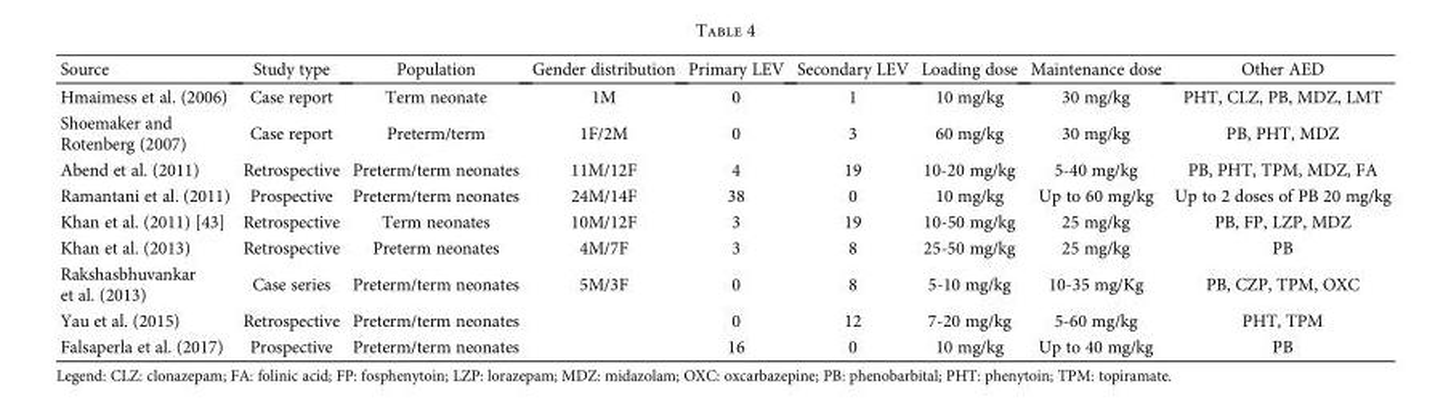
<table><thead><tr><td>Source</td><td>Study type</td><td>Population</td><td>Gender distribution</td><td>Primary LEV</td><td>Secondary LEV</td><td>Loading dose</td><td>Maintenance dose</td><td>Other AED</td></tr></thead><tbody><tr><td>Hmaimess et al. (2006)</td><td>Case report</td><td>Term neonate</td><td>1M</td><td>0</td><td>1</td><td>10 mg/kg</td><td>30 mg/kg</td><td>PHT, CLZ, PB, MDZ, LMT</td></tr><tr><td>Shoemaker and Rotenberg (2007)</td><td>Case report</td><td>Preterm/term</td><td>1F/2M</td><td>0</td><td>3</td><td>60 mg/kg</td><td>30 mg/kg</td><td>PB, PHT, MDZ</td></tr><tr><td>Abend et al. (2011)</td><td>Retrospective</td><td>Preterm/term neonates</td><td>11M/12F</td><td>4</td><td>19</td><td>10-20 mg/kg</td><td>5-40 mg/kg</td><td>PB, PHT, TPM, MDZ, FA</td></tr><tr><td>Ramantani et al. (2011)</td><td>Prospective</td><td>Preterm/term neonates</td><td>24M/14F</td><td>38</td><td>0</td><td>10 mg/kg</td><td>Up to 60 mg/kg</td><td>Up to 2 doses of PB 20 mg/kg</td></tr><tr><td>Khan et al. (2011) [43]</td><td>Retrospective</td><td>Term neonates</td><td>10M/12F</td><td>3</td><td>19</td><td>10-50 mg/kg</td><td>25 mg/kg</td><td>PB, FP, LZP, MDZ</td></tr><tr><td>Khan et al. (2013)</td><td>Retrospective</td><td>Preterm neonates</td><td>4M/7F</td><td>3</td><td>8</td><td>25-50 mg/kg</td><td>25 mg/kg</td><td>PB</td></tr><tr><td>Rakshasbhuvankar et al. (2013)</td><td>Case series</td><td>Preterm/term neonates</td><td>5M/3F</td><td>0</td><td>8</td><td>5-10 mg/kg</td><td>10-35 mg/Kg</td><td>PB, CZP, TPM, OXC</td></tr><tr><td>Yau et al. (2015)</td><td>Retrospective</td><td>Preterm/term neonates</td><td></td><td>0</td><td>12</td><td>7-20 mg/kg</td><td>5-60 mg/kg</td><td>PHT, TPM</td></tr><tr><td>Falsaperla et al. (2017)</td><td>Prospective</td><td>Preterm/term neonates</td><td></td><td>16</td><td>0</td><td>10 mg/kg</td><td>Up to 40 mg/kg</td><td>PB</td></tr></tbody></table>